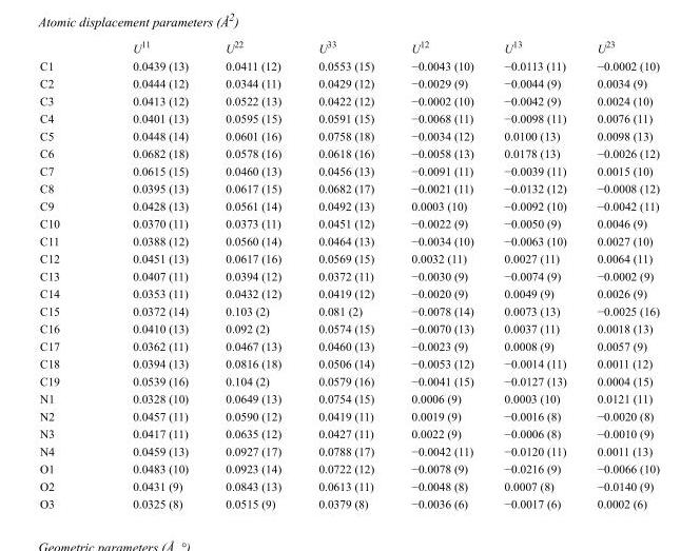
<table><thead><tr><td></td><td>U<sup>11</sup></td><td>U<sup>22</sup></td><td>U<sup>33</sup></td><td>U<sup>12</sup></td><td>U<sup>13</sup></td><td>U<sup>23</sup></td></tr></thead><tbody><tr><td>C1</td><td>0.0439 (13)</td><td>0.0411 (12)</td><td>0.0553 (15)</td><td>−0.0043 (10)</td><td>−0.0113 (11)</td><td>−0.0002 (10)</td></tr><tr><td>C2</td><td>0.0444 (12)</td><td>0.0344 (11)</td><td>0.0429 (12)</td><td>−0.0029 (9)</td><td>−0.0044 (9)</td><td>0.0034 (9)</td></tr><tr><td>C3</td><td>0.0413 (12)</td><td>0.0522 (13)</td><td>0.0422 (12)</td><td>−0.0002 (10)</td><td>−0.0042 (9)</td><td>0.0024 (10)</td></tr><tr><td>C4</td><td>0.0401 (13)</td><td>0.0595 (15)</td><td>0.0591 (15)</td><td>−0.0068 (11)</td><td>−0.0098 (11)</td><td>0.0076 (11)</td></tr><tr><td>C5</td><td>0.0448 (14)</td><td>0.0601 (16)</td><td>0.0758 (18)</td><td>−0.0034 (12)</td><td>0.0100 (13)</td><td>0.0098 (13)</td></tr><tr><td>C6</td><td>0.0682 (18)</td><td>0.0578 (16)</td><td>0.0618 (16)</td><td>−0.0058 (13)</td><td>0.0178 (13)</td><td>−0.0026 (12)</td></tr><tr><td>C7</td><td>0.0615 (15)</td><td>0.0460 (13)</td><td>0.0456 (13)</td><td>−0.0091 (11)</td><td>−0.0039 (11)</td><td>0.0015 (10)</td></tr><tr><td>C8</td><td>0.0395 (13)</td><td>0.0617 (15)</td><td>0.0682 (17)</td><td>−0.0021 (11)</td><td>−0.0132 (12)</td><td>−0.0008 (12)</td></tr><tr><td>C9</td><td>0.0428 (13)</td><td>0.0561 (14)</td><td>0.0492 (13)</td><td>0.0003 (10)</td><td>−0.0092 (10)</td><td>−0.0042 (11)</td></tr><tr><td>C10</td><td>0.0370 (11)</td><td>0.0373 (11)</td><td>0.0451 (12)</td><td>−0.0022 (9)</td><td>−0.0050 (9)</td><td>0.0046 (9)</td></tr><tr><td>C11</td><td>0.0388 (12)</td><td>0.0560 (14)</td><td>0.0464 (13)</td><td>−0.0034 (10)</td><td>−0.0063 (10)</td><td>0.0027 (10)</td></tr><tr><td>C12</td><td>0.0451 (13)</td><td>0.0617 (16)</td><td>0.0569 (15)</td><td>0.0032 (11)</td><td>0.0027 (11)</td><td>0.0064 (11)</td></tr><tr><td>C13</td><td>0.0407 (11)</td><td>0.0394 (12)</td><td>0.0372 (11)</td><td>−0.0030 (9)</td><td>−0.0074 (9)</td><td>−0.0002 (9)</td></tr><tr><td>C14</td><td>0.0353 (11)</td><td>0.0432 (12)</td><td>0.0419 (12)</td><td>−0.0020 (9)</td><td>0.0049 (9)</td><td>0.0026 (9)</td></tr><tr><td>C15</td><td>0.0372 (14)</td><td>0.103 (2)</td><td>0.081 (2)</td><td>−0.0078 (14)</td><td>0.0073 (13)</td><td>−0.0025 (16)</td></tr><tr><td>C16</td><td>0.0410 (13)</td><td>0.092 (2)</td><td>0.0574 (15)</td><td>−0.0070 (13)</td><td>0.0037 (11)</td><td>0.0018 (13)</td></tr><tr><td>C17</td><td>0.0362 (11)</td><td>0.0467 (13)</td><td>0.0460 (13)</td><td>−0.0023 (9)</td><td>0.0008 (9)</td><td>0.0057 (9)</td></tr><tr><td>C18</td><td>0.0394 (13)</td><td>0.0816 (18)</td><td>0.0506 (14)</td><td>−0.0053 (12)</td><td>−0.0014 (11)</td><td>0.0011 (12)</td></tr><tr><td>C19</td><td>0.0539 (16)</td><td>0.104 (2)</td><td>0.0579 (16)</td><td>−0.0041 (15)</td><td>−0.0127 (13)</td><td>0.0004 (15)</td></tr><tr><td>N1</td><td>0.0328 (10)</td><td>0.0649 (13)</td><td>0.0754 (15)</td><td>0.0006 (9)</td><td>0.0003 (10)</td><td>0.0121 (11)</td></tr><tr><td>N2</td><td>0.0457 (11)</td><td>0.0590 (12)</td><td>0.0419 (11)</td><td>0.0019 (9)</td><td>−0.0016 (8)</td><td>−0.0020 (8)</td></tr><tr><td>N3</td><td>0.0417 (11)</td><td>0.0635 (12)</td><td>0.0427 (11)</td><td>0.0022 (9)</td><td>−0.0006 (8)</td><td>−0.0010 (9)</td></tr><tr><td>N4</td><td>0.0459 (13)</td><td>0.0927 (17)</td><td>0.0788 (17)</td><td>−0.0042 (11)</td><td>−0.0120 (11)</td><td>0.0011 (13)</td></tr><tr><td>O1</td><td>0.0483 (10)</td><td>0.0923 (14)</td><td>0.0722 (12)</td><td>−0.0078 (9)</td><td>−0.0216 (9)</td><td>−0.0066 (10)</td></tr><tr><td>O2</td><td>0.0431 (9)</td><td>0.0843 (13)</td><td>0.0613 (11)</td><td>−0.0048 (8)</td><td>0.0007 (8)</td><td>−0.0140 (9)</td></tr><tr><td>O3</td><td>0.0325 (8)</td><td>0.0515 (9)</td><td>0.0379 (8)</td><td>−0.0036 (6)</td><td>−0.0017 (6)</td><td>0.0002 (6)</td></tr></tbody></table>